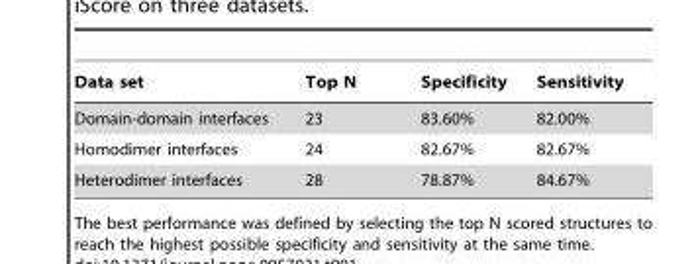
<table><thead><tr><td>Data set</td><td>Top N</td><td>Specificity</td><td>Sensitivity</td></tr></thead><tbody><tr><td>Domain-domain interfaces</td><td>23</td><td>83.60%</td><td>82.00%</td></tr><tr><td>Homodimer interfaces</td><td>24</td><td>82.67%</td><td>82.67%</td></tr><tr><td>Heterodimer interfaces</td><td>28</td><td>78.87%</td><td>84.67%</td></tr></tbody></table>